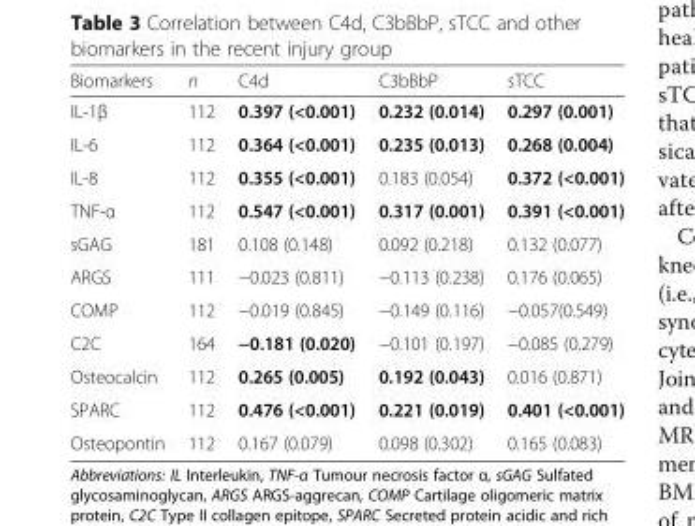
<table><thead><tr><td>Biomarkers</td><td>n</td><td>C4d</td><td>C3bBbP</td><td>sTCC</td></tr></thead><tbody><tr><td>IL-1β</td><td>112</td><td>0.397 (&lt;0.001)</td><td>0.232 (0.014)</td><td>0.297 (0.001)</td></tr><tr><td>IL-6</td><td>112</td><td>0.364 (&lt;0.001)</td><td>0.235 (0.013)</td><td>0.268 (0.004)</td></tr><tr><td>IL-8</td><td>112</td><td>0.355 (&lt;0.001)</td><td>0.183 (0.054)</td><td>0.372 (&lt;0.001)</td></tr><tr><td>TNF-α</td><td>112</td><td>0.547 (&lt;0.001)</td><td>0.317 (0.001)</td><td>0.391 (&lt;0.001)</td></tr><tr><td>sGAG</td><td>181</td><td>0.108 (0.148)</td><td>0.092 (0.218)</td><td>0.132 (0.077)</td></tr><tr><td>ARGS</td><td>111</td><td>−0.023 (0.811)</td><td>−0.113 (0.238)</td><td>0.176 (0.065)</td></tr><tr><td>COMP</td><td>112</td><td>−0.019 (0.845)</td><td>−0.149 (0.116)</td><td>−0.057(0.549)</td></tr><tr><td>C2C</td><td>164</td><td>−0.181 (0.020)</td><td>−0.101 (0.197)</td><td>−0.085 (0.279)</td></tr><tr><td>Osteocalcin</td><td>112</td><td>0.265 (0.005)</td><td>0.192 (0.043)</td><td>0.016 (0.871)</td></tr><tr><td>SPARC</td><td>112</td><td>0.476 (&lt;0.001)</td><td>0.221 (0.019)</td><td>0.401 (&lt;0.001)</td></tr><tr><td>Osteopontin</td><td>112</td><td>0.167 (0.079)</td><td>0.098 (0.302)</td><td>0.165 (0.083)</td></tr></tbody></table>